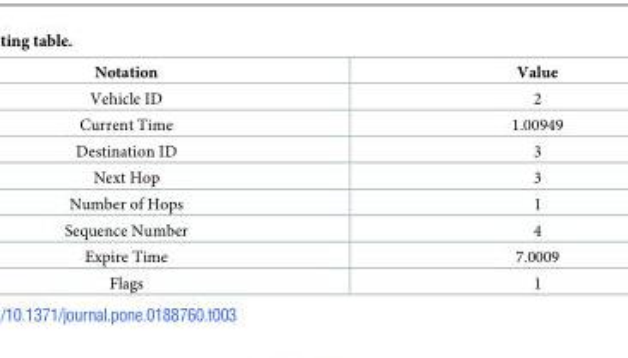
<table><thead><tr><td>Notation</td><td>Value</td></tr></thead><tbody><tr><td>Vehicle ID</td><td>2</td></tr><tr><td>Current Time</td><td>1.00949</td></tr><tr><td>Destination ID</td><td>3</td></tr><tr><td>Next Hop</td><td>3</td></tr><tr><td>Number of Hops</td><td>1</td></tr><tr><td>Sequence Number</td><td>4</td></tr><tr><td>Expire Time</td><td>7.0009</td></tr><tr><td>Flags</td><td>1</td></tr></tbody></table>